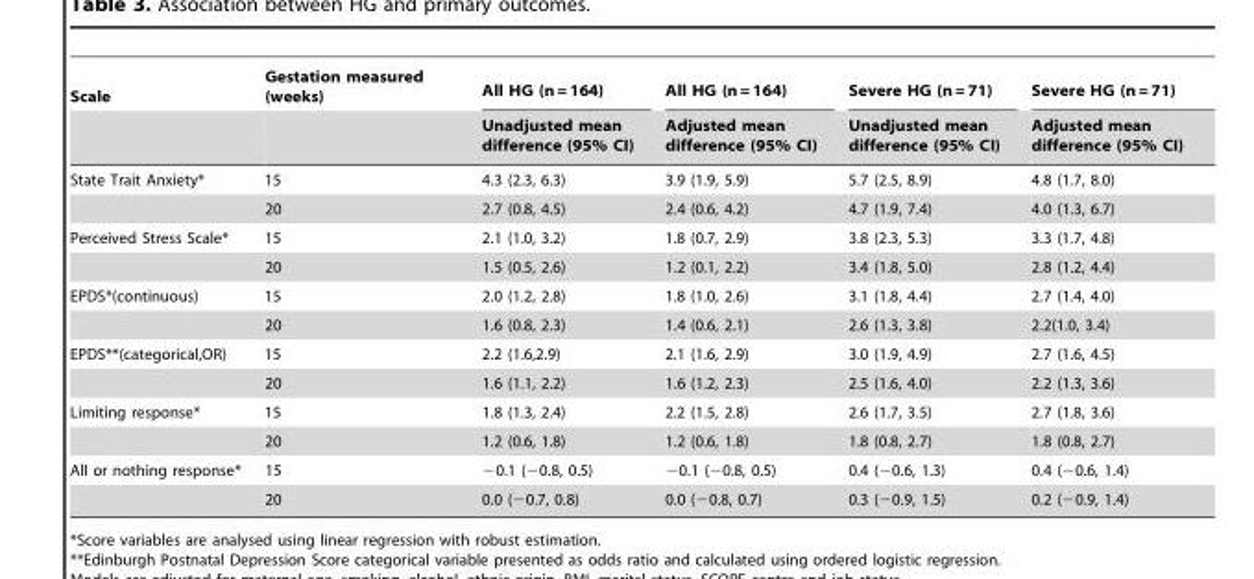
<table><thead><tr><td rowspan="2">Scale</td><td rowspan="2">Gestation measured (weeks)</td><td rowspan="2">All HG (n = 164) Unadjusted mean difference (95% CI)</td><td rowspan="2">All HG (n = 164) Adjusted mean difference (95% CI)</td><td rowspan="2">Severe HG (n = 71) Unadjusted mean difference (95% CI)</td><td rowspan="2">Severe HG (n = 71) Adjusted mean difference (95% CI)</td></tr><tr></tr></thead><tbody><tr><td rowspan="2">State Trait Anxiety*</td><td>15</td><td>4.3 (2.3, 6.3)</td><td>3.9 (1.9, 5.9)</td><td>5.7 (2.5, 8.9)</td><td>4.8 (1.7, 8.0)</td></tr><tr><td>20</td><td>2.7 (0.8, 4.5)</td><td>2.4 (0.6, 4.2)</td><td>4.7 (1.9, 7.4)</td><td>4.0 (1.3, 6.7)</td></tr><tr><td rowspan="2">Perceived Stress Scale*</td><td>15</td><td>2.1 (1.0, 3.2)</td><td>1.8 (0.7, 2.9)</td><td>3.8 (2.3, 5.3)</td><td>3.3 (1.7, 4.8)</td></tr><tr><td>20</td><td>1.5 (0.5, 2.6)</td><td>1.2 (0.1, 2.2)</td><td>3.4 (1.8, 5.0)</td><td>2.8 (1.2, 4.4)</td></tr><tr><td rowspan="2">EPDS*(continuous)</td><td>15</td><td>2.0 (1.2, 2.8)</td><td>1.8 (1.0, 2.6)</td><td>3.1 (1.8, 4.4)</td><td>2.7 (1.4, 4.0)</td></tr><tr><td>20</td><td>1.6 (0.8, 2.3)</td><td>1.4 (0.6, 2.1)</td><td>2.6 (1.3, 3.8)</td><td>2.2(1.0, 3.4)</td></tr><tr><td rowspan="2">EPDS**(categorical,OR)</td><td>15</td><td>2.2 (1.6,2.9)</td><td>2.1 (1.6, 2.9)</td><td>3.0 (1.9, 4.9)</td><td>2.7 (1.6, 4.5)</td></tr><tr><td>20</td><td>1.6 (1.1, 2.2)</td><td>1.6 (1.2, 2.3)</td><td>2.5 (1.6, 4.0)</td><td>2.2 (1.3, 3.6)</td></tr><tr><td rowspan="2">Limiting response*</td><td>15</td><td>1.8 (1.3, 2.4)</td><td>2.2 (1.5, 2.8)</td><td>2.6 (1.7, 3.5)</td><td>2.7 (1.8, 3.6)</td></tr><tr><td>20</td><td>1.2 (0.6, 1.8)</td><td>1.2 (0.6, 1.8)</td><td>1.8 (0.8, 2.7)</td><td>1.8 (0.8, 2.7)</td></tr><tr><td rowspan="2">All or nothing response*</td><td>15</td><td>−0.1 (−0.8, 0.5)</td><td>−0.1 (−0.8, 0.5)</td><td>0.4 (−0.6, 1.3)</td><td>0.4 (−0.6, 1.4)</td></tr><tr><td>20</td><td>0.0 (−0.7, 0.8)</td><td>0.0 (−0.8, 0.7)</td><td>0.3 (−0.9, 1.5)</td><td>0.2 (−0.9, 1.4)</td></tr></tbody></table>